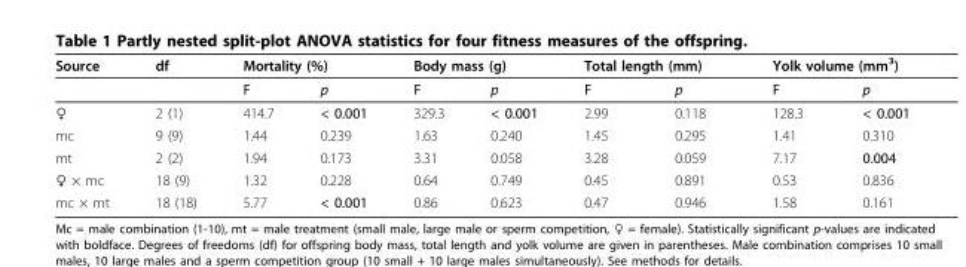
<table><thead><tr><td rowspan="2">Source</td><td rowspan="2">df</td><td colspan="2">Mortality (%)</td><td colspan="2">Body mass (g)</td><td colspan="2">Total length (mm)</td><td colspan="2">Yolk volume (mm<sup>3</sup>)</td></tr><tr><td>F</td><td>p</td><td>F</td><td>p</td><td>F</td><td>p</td><td>F</td><td>p</td></tr></thead><tbody><tr><td>♀</td><td>2 (1)</td><td>414.7</td><td>&lt; 0.001</td><td>329.3</td><td>&lt; 0.001</td><td>2.99</td><td>0.118</td><td>128.3</td><td>&lt; 0.001</td></tr><tr><td>mc</td><td>9 (9)</td><td>1.44</td><td>0.239</td><td>1.63</td><td>0.240</td><td>1.45</td><td>0.295</td><td>1.41</td><td>0.310</td></tr><tr><td>mt</td><td>2 (2)</td><td>1.94</td><td>0.173</td><td>3.31</td><td>0.058</td><td>3.28</td><td>0.059</td><td>7.17</td><td>0.004</td></tr><tr><td>♀ × mc</td><td>18 (9)</td><td>1.32</td><td>0.228</td><td>0.64</td><td>0.749</td><td>0.45</td><td>0.891</td><td>0.53</td><td>0.836</td></tr><tr><td>mc × mt</td><td>18 (18)</td><td>5.77</td><td>&lt; 0.001</td><td>0.86</td><td>0.623</td><td>0.47</td><td>0.946</td><td>1.58</td><td>0.161</td></tr></tbody></table>